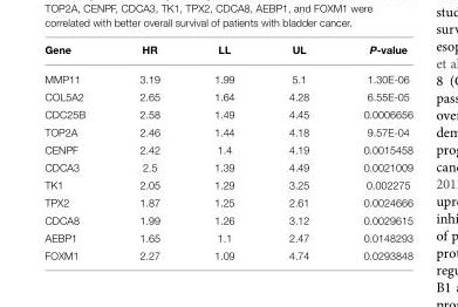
<table><thead><tr><td>Gene</td><td>HR</td><td>LL</td><td>UL</td><td>P-value</td></tr></thead><tbody><tr><td>MMP11</td><td>3.19</td><td>1.99</td><td>5.1</td><td>1.30E-06</td></tr><tr><td>COL5A2</td><td>2.65</td><td>1.64</td><td>4.28</td><td>6.55E-05</td></tr><tr><td>CDC25B</td><td>2.58</td><td>1.49</td><td>4.45</td><td>0.0006656</td></tr><tr><td>TOP2A</td><td>2.46</td><td>1.44</td><td>4.18</td><td>9.57E-04</td></tr><tr><td>CENPF</td><td>2.42</td><td>1.4</td><td>4.19</td><td>0.0015458</td></tr><tr><td>CDCA3</td><td>2.5</td><td>1.39</td><td>4.49</td><td>0.0021009</td></tr><tr><td>TK1</td><td>2.05</td><td>1.29</td><td>3.25</td><td>0.002275</td></tr><tr><td>TPX2</td><td>1.87</td><td>1.25</td><td>2.61</td><td>0.0024666</td></tr><tr><td>CDCA8</td><td>1.99</td><td>1.26</td><td>3.12</td><td>0.0029615</td></tr><tr><td>AEBP1</td><td>1.65</td><td>1.1</td><td>2.47</td><td>0.0148293</td></tr><tr><td>FOXM1</td><td>2.27</td><td>1.09</td><td>4.74</td><td>0.0293848</td></tr></tbody></table>